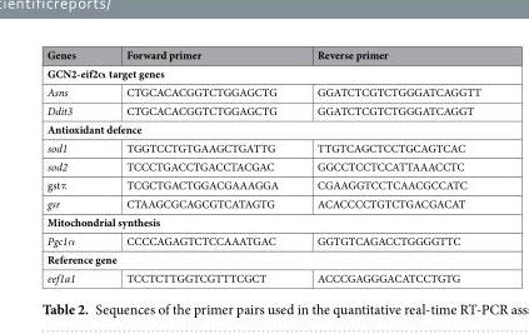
<table><thead><tr><td>Genes</td><td>Forward primer</td><td>Reverse primer</td></tr></thead><tbody><tr><td colspan="3">GCN2-eif2α target genes</td></tr><tr><td>Asns</td><td>CTGCACACGGTCTGGAGCTG</td><td>GGATCTCGTCTGGGATCAGGTT</td></tr><tr><td>Ddit3</td><td>CTGCACACGGTCTGGAGCTG</td><td>GGATCTCGTCTGGGATCAGGT</td></tr><tr><td colspan="3">Antioxidant defence</td></tr><tr><td>sod1</td><td>TGGTCCTGTGAAGCTGATTG</td><td>TTGTCAGCTCCTGCAGTCAC</td></tr><tr><td>sod2</td><td>TCCCTGACCTGACCTACGAC</td><td>GGCCTCCTCCATTAAACCTC</td></tr><tr><td>gstπ</td><td>TCGCTGACTGGACGAAAGGA</td><td>CGAAGGTCCTCAACGCCATC</td></tr><tr><td>gsr</td><td>CTAAGCGCAGCGTCATAGTG</td><td>ACACCCCTGTCTGACGACAT</td></tr><tr><td colspan="3">Mitochondrial synthesis</td></tr><tr><td>Pgc1α</td><td>CCCCAGAGTCTCCAAATGAC</td><td>GGTGTCAGACCTGGGGTTC</td></tr><tr><td colspan="3">Reference gene</td></tr><tr><td>eef1a1</td><td>TCCTCTTGGTCGTTTCGCT</td><td>ACCCGAGGGACATCCTGTG</td></tr></tbody></table>